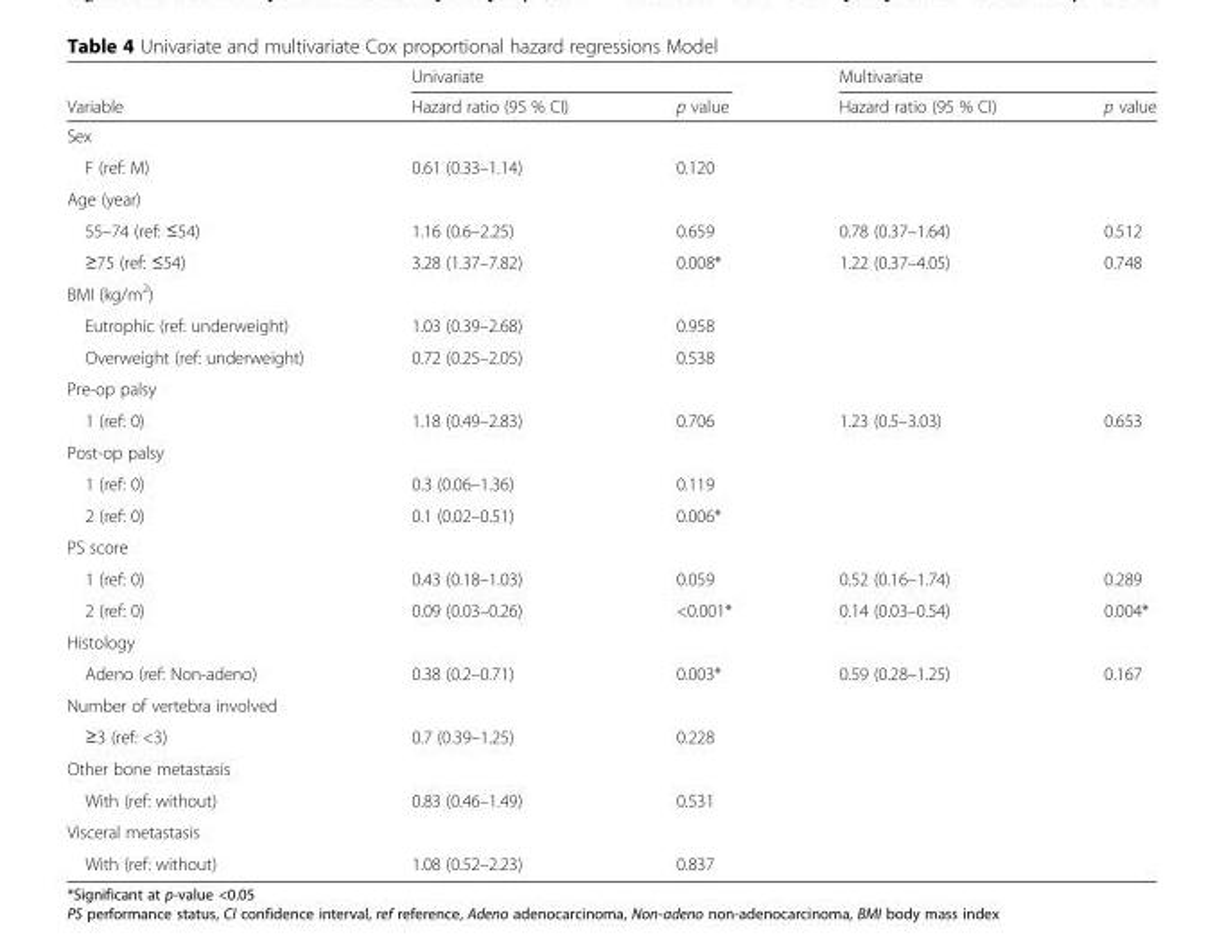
<table><thead><tr><td rowspan="2">Variable</td><td colspan="2">Univariate</td><td colspan="2">Multivariate</td></tr><tr><td>Hazard ratio (95 % CI)</td><td>p value</td><td>Hazard ratio (95 % CI)</td><td>p value</td></tr></thead><tbody><tr><td colspan="5">Sex</td></tr><tr><td>F (ref: M)</td><td>0.61 (0.33–1.14)</td><td>0.120</td><td></td><td></td></tr><tr><td colspan="5">Age (year)</td></tr><tr><td>55–74 (ref: ≤54)</td><td>1.16 (0.6–2.25)</td><td>0.659</td><td>0.78 (0.37–1.64)</td><td>0.512</td></tr><tr><td>≥75 (ref: ≤54)</td><td>3.28 (1.37–7.82)</td><td>0.008*</td><td>1.22 (0.37–4.05)</td><td>0.748</td></tr><tr><td colspan="5">BMI (kg/m<sup>2</sup>)</td></tr><tr><td>Eutrophic (ref: underweight)</td><td>1.03 (0.39–2.68)</td><td>0.958</td><td></td><td></td></tr><tr><td>Overweight (ref: underweight)</td><td>0.72 (0.25–2.05)</td><td>0.538</td><td></td><td></td></tr><tr><td colspan="5">Pre-op palsy</td></tr><tr><td>1 (ref: 0)</td><td>1.18 (0.49–2.83)</td><td>0.706</td><td>1.23 (0.5–3.03)</td><td>0.653</td></tr><tr><td colspan="5">Post-op palsy</td></tr><tr><td>1 (ref: 0)</td><td>0.3 (0.06–1.36)</td><td>0.119</td><td></td><td></td></tr><tr><td>2 (ref: 0)</td><td>0.1 (0.02–0.51)</td><td>0.006*</td><td></td><td></td></tr><tr><td colspan="5">PS score</td></tr><tr><td>1 (ref: 0)</td><td>0.43 (0.18–1.03)</td><td>0.059</td><td>0.52 (0.16–1.74)</td><td>0.289</td></tr><tr><td>2 (ref: 0)</td><td>0.09 (0.03–0.26)</td><td>&lt;0.001*</td><td>0.14 (0.03–0.54)</td><td>0.004*</td></tr><tr><td colspan="5">Histology</td></tr><tr><td>Adeno (ref: Non-adeno)</td><td>0.38 (0.2–0.71)</td><td>0.003*</td><td>0.59 (0.28–1.25)</td><td>0.167</td></tr><tr><td colspan="5">Number of vertebra involved</td></tr><tr><td>≥3 (ref: &lt;3)</td><td>0.7 (0.39–1.25)</td><td>0.228</td><td></td><td></td></tr><tr><td colspan="5">Other bone metastasis</td></tr><tr><td>With (ref: without)</td><td>0.83 (0.46–1.49)</td><td>0.531</td><td></td><td></td></tr><tr><td colspan="5">Visceral metastasis</td></tr><tr><td>With (ref: without)</td><td>1.08 (0.52–2.23)</td><td>0.837</td><td></td><td></td></tr></tbody></table>